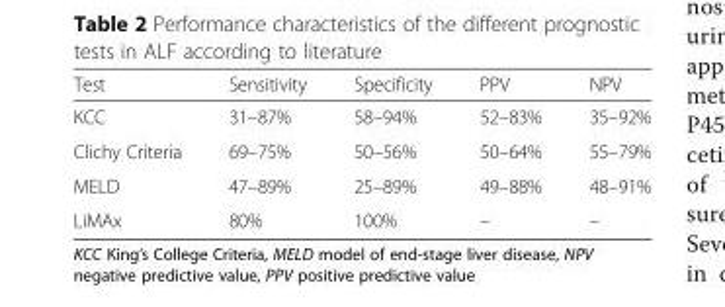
<table><thead><tr><td>Test</td><td>Sensitivity</td><td>Specificity</td><td>PPV</td><td>NPV</td></tr></thead><tbody><tr><td>KCC</td><td>31–87%</td><td>58–94%</td><td>52–83%</td><td>35–92%</td></tr><tr><td>Clichy Criteria</td><td>69–75%</td><td>50–56%</td><td>50–64%</td><td>55–79%</td></tr><tr><td>MELD</td><td>47–89%</td><td>25–89%</td><td>49–88%</td><td>48–91%</td></tr><tr><td>LiMAx</td><td>80%</td><td>100%</td><td>–</td><td>–</td></tr></tbody></table>